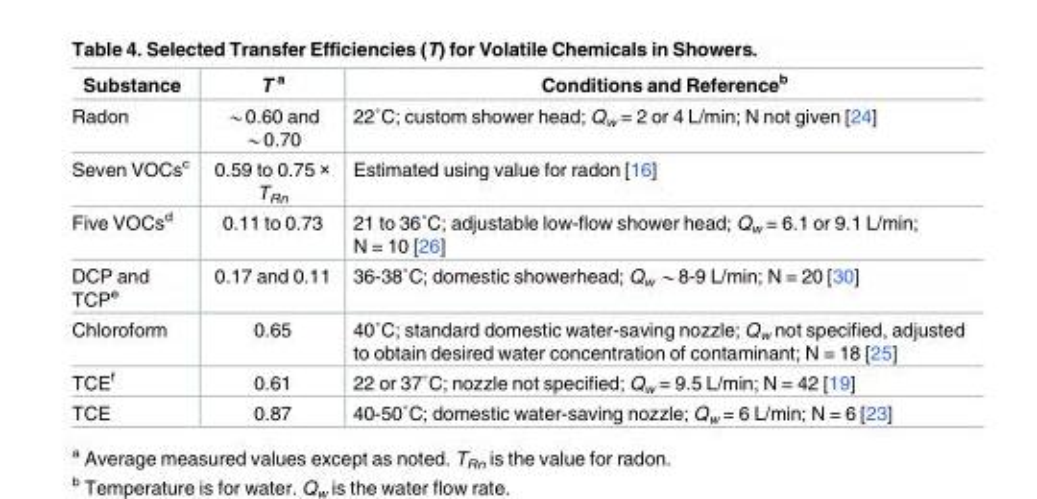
<table><thead><tr><td>Substance</td><td>T <sup>a</sup></td><td>Conditions and Reference<sup>b</sup></td></tr></thead><tbody><tr><td>Radon</td><td>*0.60 and *0.70</td><td>22˚C; custom shower head; Qw = 2 or 4 L/min; N not given [24]</td></tr><tr><td>Seven VOCs<sup>c</sup></td><td>0.59 to 0.75 × T<sub>Rn</sub></td><td>Estimated using value for radon [16]</td></tr><tr><td>Five VOCs<sup>d</sup></td><td>0.11 to 0.73</td><td>21 to 36˚C; adjustable low-flow shower head; Qw = 6.1 or 9.1 L/min; N = 10 [26]</td></tr><tr><td>DCP and TCP<sup>e</sup></td><td>0.17 and 0.11</td><td>36-38˚C; domestic showerhead; Qw *8-9 L/min; N = 20 [30]</td></tr><tr><td>Chloroform</td><td>0.65</td><td>40˚C; standard domestic water-saving nozzle; Qw not specified, adjusted to obtain desired water concentration of contaminant; N = 18 [25]</td></tr><tr><td>TCE<sup>f</sup></td><td>0.61</td><td>22 or 37˚C; nozzle not specified; Qw = 9.5 L/min; N = 42 [19]</td></tr><tr><td>TCE</td><td>0.87</td><td>40-50˚C; domestic water-saving nozzle; Qw = 6 L/min; N = 6 [23]</td></tr></tbody></table>